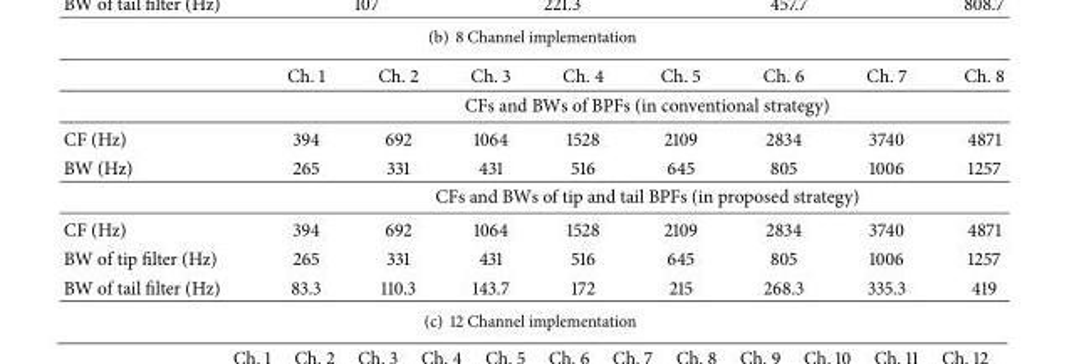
<table><thead><tr><td></td><td>Ch. 1</td><td>Ch. 2</td><td>Ch. 3</td><td>Ch. 4</td><td>Ch. 5</td><td>Ch. 6</td><td>Ch. 7</td><td>Ch. 8</td></tr></thead><tbody><tr><td></td><td colspan="8">CFs and BWs of BPFs (in conventional strategy)</td></tr><tr><td>CF (Hz)</td><td>394</td><td>692</td><td>1064</td><td>1528</td><td>2109</td><td>2834</td><td>3740</td><td>4871</td></tr><tr><td rowspan="2">BW (Hz)</td><td>265</td><td>331</td><td>431</td><td>516</td><td>645</td><td>805</td><td>1006</td><td>1257</td></tr><tr><td colspan="8">CFs and BWs of tip and tail BPFs (in proposed strategy)</td></tr><tr><td>CF (Hz)</td><td>394</td><td>692</td><td>1064</td><td>1528</td><td>2109</td><td>2834</td><td>3740</td><td>4871</td></tr><tr><td>BW of tip filter (Hz)</td><td>265</td><td>331</td><td>431</td><td>516</td><td>645</td><td>805</td><td>1006</td><td>1257</td></tr><tr><td>BW of tail filter (Hz)</td><td>83.3</td><td>110.3</td><td>143.7</td><td>172</td><td>215</td><td>268.3</td><td>335.3</td><td>419</td></tr></tbody></table>